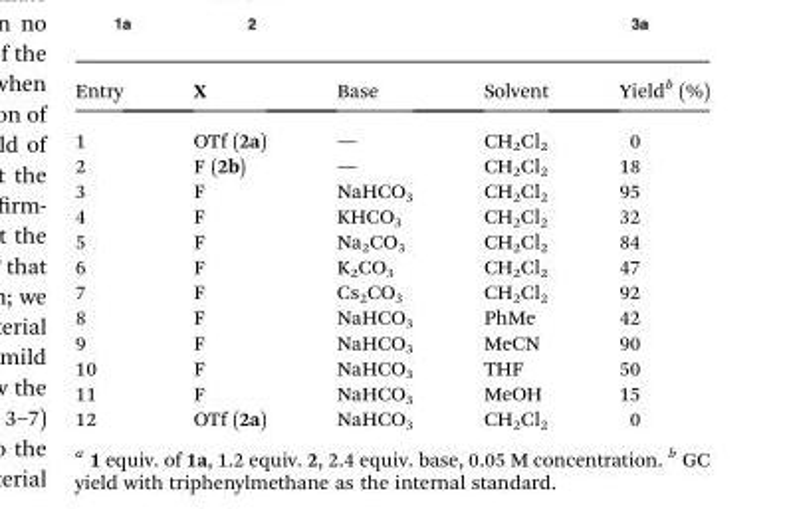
<table><thead><tr><td>Entry</td><td>X</td><td>Base</td><td>Solvent</td><td>Yield<sup>b</sup> (%)</td></tr></thead><tbody><tr><td>1</td><td>OTf (2a)</td><td>—</td><td>CH<sub>2</sub>Cl<sub>2</sub></td><td>0</td></tr><tr><td>2</td><td>F (2b)</td><td>—</td><td>CH<sub>2</sub>Cl<sub>2</sub></td><td>18</td></tr><tr><td>3</td><td>F</td><td>NaHCO<sub>3</sub></td><td>CH<sub>2</sub>Cl<sub>2</sub></td><td>95</td></tr><tr><td>4</td><td>F</td><td>KHCO<sub>3</sub></td><td>CH<sub>2</sub>Cl<sub>2</sub></td><td>32</td></tr><tr><td>5</td><td>F</td><td>Na<sub>2</sub>CO<sub>3</sub></td><td>CH<sub>2</sub>Cl<sub>2</sub></td><td>84</td></tr><tr><td>6</td><td>F</td><td>K<sub>2</sub>CO<sub>3</sub></td><td>CH<sub>2</sub>Cl<sub>2</sub></td><td>47</td></tr><tr><td>7</td><td>F</td><td>Cs<sub>2</sub>CO<sub>3</sub></td><td>CH<sub>2</sub>Cl<sub>2</sub></td><td>92</td></tr><tr><td>8</td><td>F</td><td>NaHCO<sub>3</sub></td><td>PhMe</td><td>42</td></tr><tr><td>9</td><td>F</td><td>NaHCO<sub>3</sub></td><td>MeCN</td><td>90</td></tr><tr><td>10</td><td>F</td><td>NaHCO<sub>3</sub></td><td>THF</td><td>50</td></tr><tr><td>11</td><td>F</td><td>NaHCO<sub>3</sub></td><td>MeOH</td><td>15</td></tr><tr><td>12</td><td>OTf (2a)</td><td>NaHCO<sub>3</sub></td><td>CH<sub>2</sub>Cl<sub>2</sub></td><td>0</td></tr></tbody></table>